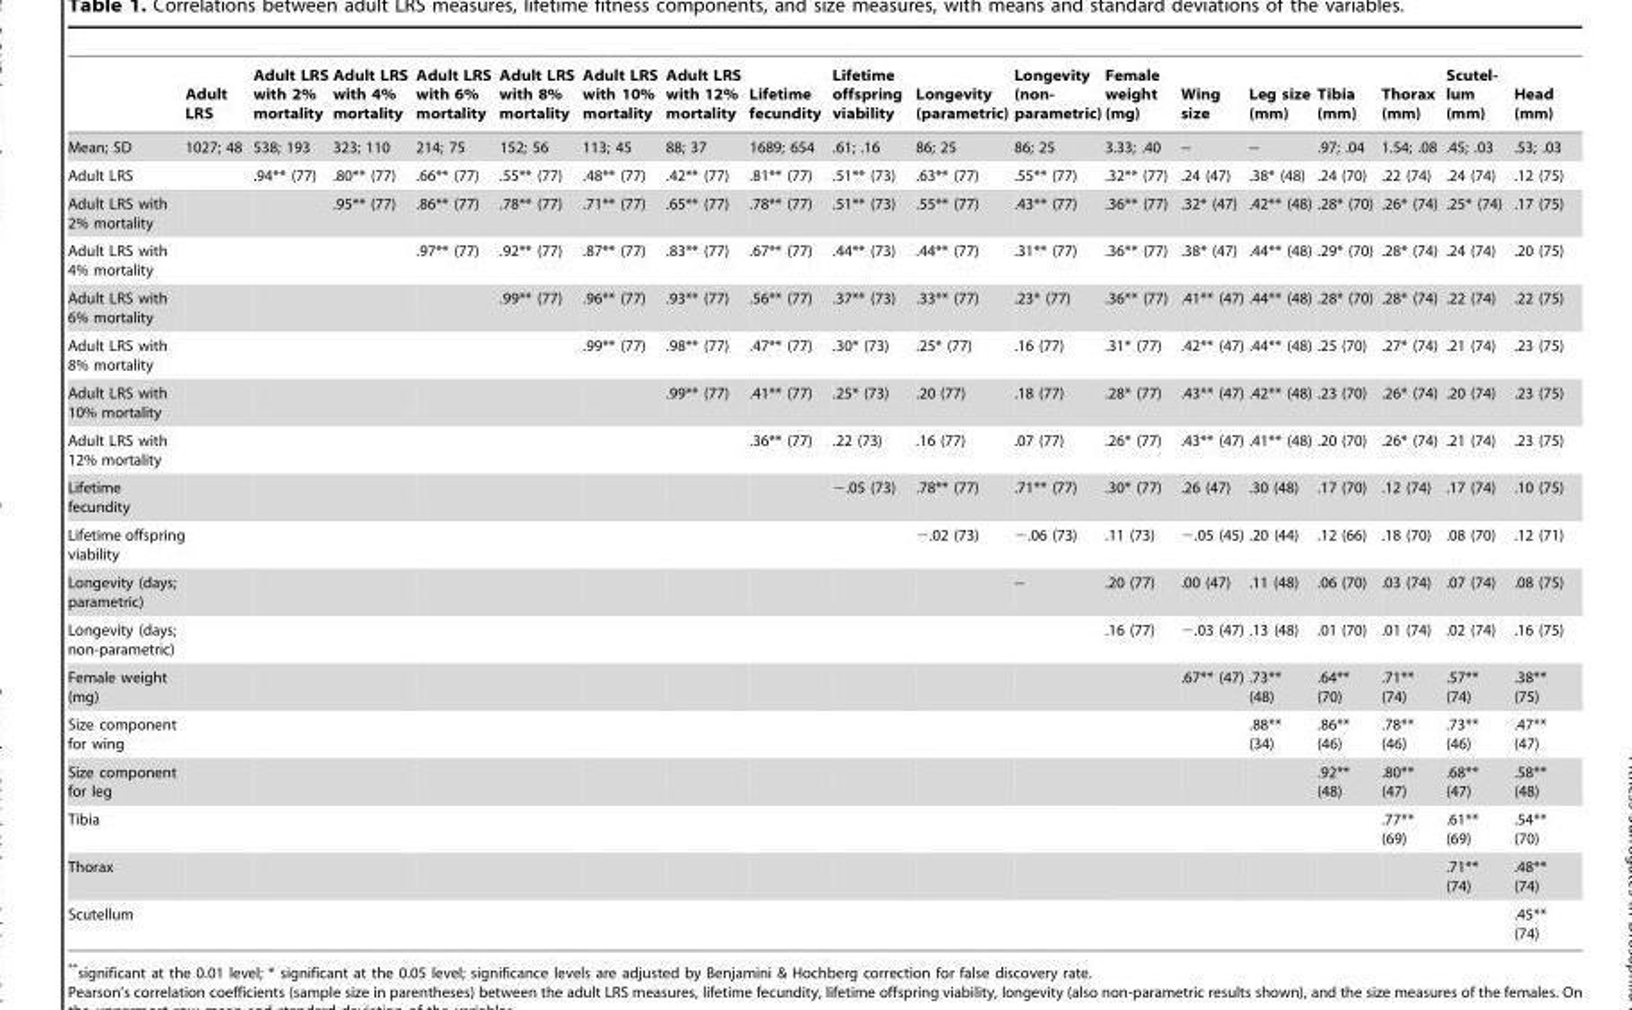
<table><thead><tr><td></td><td>Adult LRS</td><td>Adult LRS with 2% mortality</td><td>Adult LRS with 4% mortality</td><td>Adult LRS with 6% mortality</td><td>Adult LRS with 8% mortality</td><td>Adult LRS with 10% mortality</td><td>Adult LRS with 12% mortality</td><td>Lifetime fecundity</td><td>Lifetime offspring viability</td><td>Longevity (parametric)</td><td>Longevity (non- parametric)</td><td>Female weight (mg)</td><td>Wing size</td><td>Leg size (mm)</td><td>Tibia (mm)</td><td>Thorax (mm)</td><td>Scutel- lum (mm)</td><td>Head (mm)</td></tr></thead><tbody><tr><td>Mean; SD</td><td>1027; 48</td><td>538; 193</td><td>323; 110</td><td>214; 75</td><td>152; 56</td><td>113; 45</td><td>88; 37</td><td>1689; 654</td><td>.61; .16</td><td>86; 25</td><td>86; 25</td><td>3.33; .40</td><td>--</td><td>--</td><td>.97; .04</td><td>1.54; .08</td><td>.45; .03</td><td>.53; .03</td></tr><tr><td>Adult LRS</td><td></td><td>.94** (77)</td><td>.80** (77)</td><td>.66** (77)</td><td>.55** (77)</td><td>.48** (77)</td><td>.42** (77)</td><td>.81** (77)</td><td>.51** (73)</td><td>.63** (77)</td><td>.55** (77)</td><td>.32** (77)</td><td>.24 (47)</td><td>.38* (48)</td><td>.24 (70)</td><td>.22 (74)</td><td>.24 (74)</td><td>.12 (75)</td></tr><tr><td>Adult LRS with 2% mortality</td><td></td><td></td><td>.95** (77)</td><td>.86** (77)</td><td>.78** (77)</td><td>.71** (77)</td><td>.65** (77)</td><td>.78** (77)</td><td>.51** (73)</td><td>.55** (77)</td><td>.43** (77)</td><td>.36** (77)</td><td>.32* (47)</td><td>.42** (48)</td><td>.28* (70)</td><td>.26* (74)</td><td>.25* (74)</td><td>.17 (75)</td></tr><tr><td>Adult LRS with 4% mortality</td><td></td><td></td><td></td><td>.97** (77)</td><td>.92** (77)</td><td>.87** (77)</td><td>.83** (77)</td><td>.67** (77)</td><td>.44** (73)</td><td>.44** (77)</td><td>.31** (77)</td><td>.36** (77)</td><td>.38* (47)</td><td>.44** (48)</td><td>.29* (70)</td><td>.28* (74)</td><td>.24 (74)</td><td>.20 (75)</td></tr><tr><td>Adult LRS with 6% mortality</td><td></td><td></td><td></td><td></td><td>.99** (77)</td><td>.96** (77)</td><td>.93** (77)</td><td>.56** (77)</td><td>.37** (73)</td><td>.33** (77)</td><td>.23* (77)</td><td>.36** (77)</td><td>.41** (47)</td><td>.44** (48)</td><td>.28* (70)</td><td>.28* (74)</td><td>.22 (74)</td><td>.22 (75)</td></tr><tr><td>Adult LRS with 8% mortality</td><td></td><td></td><td></td><td></td><td></td><td>.99** (77)</td><td>.98** (77)</td><td>.47** (77)</td><td>.30* (73)</td><td>.25* (77)</td><td>.16 (77)</td><td>.31* (77)</td><td>.42** (47)</td><td>.44** (48)</td><td>.25 (70)</td><td>.27* (74)</td><td>.21 (74)</td><td>.23 (75)</td></tr><tr><td>Adult LRS with 10% mortality</td><td></td><td></td><td></td><td></td><td></td><td></td><td>.99** (77)</td><td>.41** (77)</td><td>.25* (73)</td><td>.20 (77)</td><td>.18 (77)</td><td>.28* (77)</td><td>.43** (47)</td><td>.42** (48)</td><td>.23 (70)</td><td>.26* (74)</td><td>.20 (74)</td><td>.23 (75)</td></tr><tr><td>Adult LRS with 12% mortality</td><td></td><td></td><td></td><td></td><td></td><td></td><td></td><td>.36** (77)</td><td>.22 (73)</td><td>.16 (77)</td><td>.07 (77)</td><td>.26* (77)</td><td>.43** (47)</td><td>.41** (48)</td><td>.20 (70)</td><td>.26* (74)</td><td>.21 (74)</td><td>.23 (75)</td></tr><tr><td>Lifetime fecundity</td><td></td><td></td><td></td><td></td><td></td><td></td><td></td><td></td><td>−.05 (73)</td><td>.78** (77)</td><td>.71** (77)</td><td>.30* (77)</td><td>.26 (47)</td><td>.30 (48)</td><td>.17 (70)</td><td>.12 (74)</td><td>.17 (74)</td><td>.10 (75)</td></tr><tr><td>Lifetime offspring viability</td><td></td><td></td><td></td><td></td><td></td><td></td><td></td><td></td><td></td><td>−.02 (73)</td><td>−.06 (73)</td><td>.11 (73)</td><td>−.05 (45)</td><td>.20 (44)</td><td>.12 (66)</td><td>.18 (70)</td><td>.08 (70)</td><td>.12 (71)</td></tr><tr><td>Longevity (days; parametric)</td><td></td><td></td><td></td><td></td><td></td><td></td><td></td><td></td><td></td><td></td><td>--</td><td>.20 (77)</td><td>.00 (47)</td><td>.11 (48)</td><td>.06 (70)</td><td>.03 (74)</td><td>.07 (74)</td><td>.08 (75)</td></tr><tr><td>Longevity (days; non-parametric)</td><td></td><td></td><td></td><td></td><td></td><td></td><td></td><td></td><td></td><td></td><td></td><td>.16 (77)</td><td>−.03 (47)</td><td>.13 (48)</td><td>.01 (70)</td><td>.01 (74)</td><td>.02 (74)</td><td>.16 (75)</td></tr><tr><td>Female weight (mg)</td><td></td><td></td><td></td><td></td><td></td><td></td><td></td><td></td><td></td><td></td><td></td><td></td><td>.67** (47)</td><td>.73** (48)</td><td>.64** (70)</td><td>.71** (74)</td><td>.57** (74)</td><td>.38** (75)</td></tr><tr><td>Size component for wing</td><td></td><td></td><td></td><td></td><td></td><td></td><td></td><td></td><td></td><td></td><td></td><td></td><td></td><td>.88** (34)</td><td>.86** (46)</td><td>.78** (46)</td><td>.73** (46)</td><td>.47** (47)</td></tr><tr><td>Size component for leg</td><td></td><td></td><td></td><td></td><td></td><td></td><td></td><td></td><td></td><td></td><td></td><td></td><td></td><td></td><td>.92** (48)</td><td>.80** (47)</td><td>.68** (47)</td><td>.58** (48)</td></tr><tr><td>Tibia</td><td></td><td></td><td></td><td></td><td></td><td></td><td></td><td></td><td></td><td></td><td></td><td></td><td></td><td></td><td></td><td>.77** (69)</td><td>.61** (69)</td><td>.54** (70)</td></tr><tr><td>Thorax</td><td></td><td></td><td></td><td></td><td></td><td></td><td></td><td></td><td></td><td></td><td></td><td></td><td></td><td></td><td></td><td></td><td>.71** (74)</td><td>.48** (74)</td></tr><tr><td>Scutellum</td><td></td><td></td><td></td><td></td><td></td><td></td><td></td><td></td><td></td><td></td><td></td><td></td><td></td><td></td><td></td><td></td><td></td><td>.45** (74)</td></tr></tbody></table>